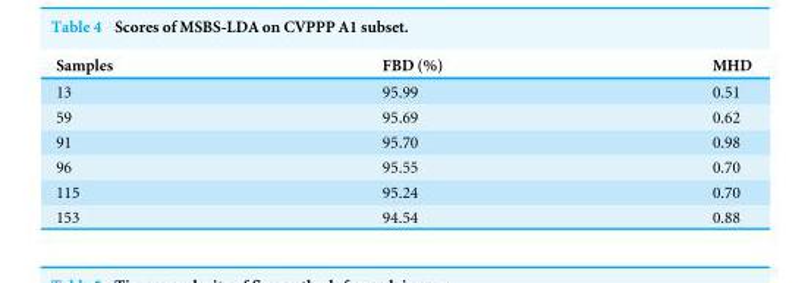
<table><thead><tr><td>Samples</td><td>FBD (%)</td><td>MHD</td></tr></thead><tbody><tr><td>13</td><td>95.99</td><td>0.51</td></tr><tr><td>59</td><td>95.69</td><td>0.62</td></tr><tr><td>91</td><td>95.70</td><td>0.98</td></tr><tr><td>96</td><td>95.55</td><td>0.70</td></tr><tr><td>115</td><td>95.24</td><td>0.70</td></tr><tr><td>153</td><td>94.54</td><td>0.88</td></tr></tbody></table>